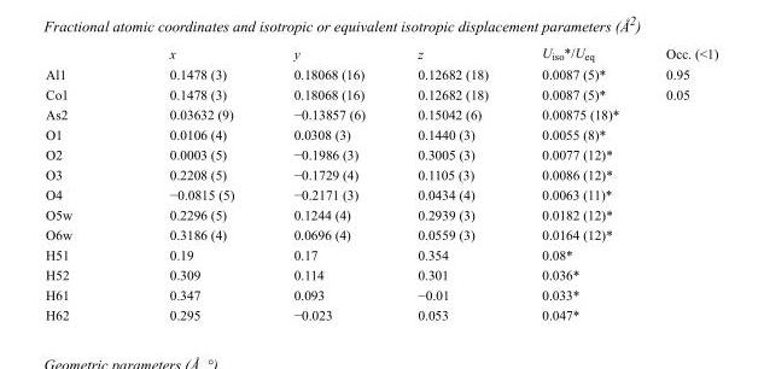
<table><thead><tr><td></td><td>x</td><td>y</td><td>z</td><td>U<sub>iso</sub>*/U<sub>eq</sub></td><td>Occ. (&lt;1)</td></tr></thead><tbody><tr><td>Al1</td><td>0.1478 (3)</td><td>0.18068 (16)</td><td>0.12682 (18)</td><td>0.0087 (5)*</td><td>0.95</td></tr><tr><td>Co1</td><td>0.1478 (3)</td><td>0.18068 (16)</td><td>0.12682 (18)</td><td>0.0087 (5)*</td><td>0.05</td></tr><tr><td>As2</td><td>0.03632 (9)</td><td>−0.13857 (6)</td><td>0.15042 (6)</td><td>0.00875 (18)*</td><td></td></tr><tr><td>O1</td><td>0.0106 (4)</td><td>0.0308 (3)</td><td>0.1440 (3)</td><td>0.0055 (8)*</td><td></td></tr><tr><td>O2</td><td>0.0003 (5)</td><td>−0.1986 (3)</td><td>0.3005 (3)</td><td>0.0077 (12)*</td><td></td></tr><tr><td>O3</td><td>0.2208 (5)</td><td>−0.1729 (4)</td><td>0.1105 (3)</td><td>0.0086 (12)*</td><td></td></tr><tr><td>O4</td><td>−0.0815 (5)</td><td>−0.2171 (3)</td><td>0.0434 (4)</td><td>0.0063 (11)*</td><td></td></tr><tr><td>O5w</td><td>0.2296 (5)</td><td>0.1244 (4)</td><td>0.2939 (3)</td><td>0.0182 (12)*</td><td></td></tr><tr><td>O6w</td><td>0.3186 (4)</td><td>0.0696 (4)</td><td>0.0559 (3)</td><td>0.0164 (12)*</td><td></td></tr><tr><td>H51</td><td>0.19</td><td>0.17</td><td>0.354</td><td>0.08*</td><td></td></tr><tr><td>H52</td><td>0.309</td><td>0.114</td><td>0.301</td><td>0.036*</td><td></td></tr><tr><td>H61</td><td>0.347</td><td>0.093</td><td>−0.01</td><td>0.033*</td><td></td></tr><tr><td>H62</td><td>0.295</td><td>−0.023</td><td>0.053</td><td>0.047*</td><td></td></tr></tbody></table>